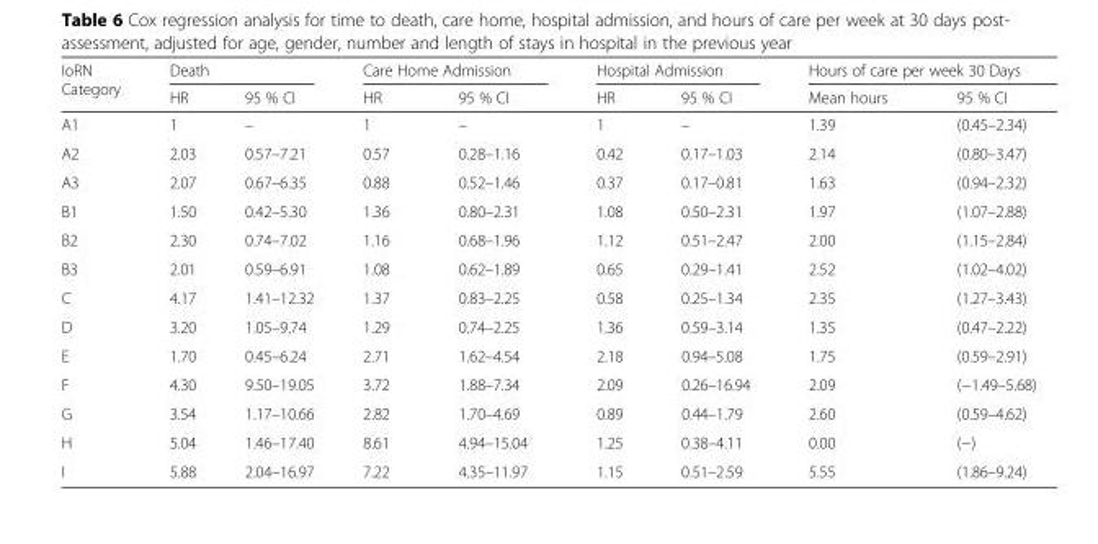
<table><thead><tr><td rowspan="2">IoRN Category</td><td colspan="2">Death</td><td colspan="2">Care Home Admission</td><td colspan="2">Hospital Admission</td><td colspan="2">Hours of care per week 30 Days</td></tr><tr><td>HR</td><td>95 % CI</td><td>HR</td><td>95 % CI</td><td>HR</td><td>95 % CI</td><td>Mean hours</td><td>95 % CI</td></tr></thead><tbody><tr><td>A1</td><td>1</td><td>–</td><td>1</td><td>–</td><td>1</td><td>–</td><td>1.39</td><td>(0.45–2.34)</td></tr><tr><td>A2</td><td>2.03</td><td>0.57–7.21</td><td>0.57</td><td>0.28–1.16</td><td>0.42</td><td>0.17–1.03</td><td>2.14</td><td>(0.80–3.47)</td></tr><tr><td>A3</td><td>2.07</td><td>0.67–6.35</td><td>0.88</td><td>0.52–1.46</td><td>0.37</td><td>0.17–0.81</td><td>1.63</td><td>(0.94–2.32)</td></tr><tr><td>B1</td><td>1.50</td><td>0.42–5.30</td><td>1.36</td><td>0.80–2.31</td><td>1.08</td><td>0.50–2.31</td><td>1.97</td><td>(1.07–2.88)</td></tr><tr><td>B2</td><td>2.30</td><td>0.74–7.02</td><td>1.16</td><td>0.68–1.96</td><td>1.12</td><td>0.51–2.47</td><td>2.00</td><td>(1.15–2.84)</td></tr><tr><td>B3</td><td>2.01</td><td>0.59–6.91</td><td>1.08</td><td>0.62–1.89</td><td>0.65</td><td>0.29–1.41</td><td>2.52</td><td>(1.02–4.02)</td></tr><tr><td>C</td><td>4.17</td><td>1.41–12.32</td><td>1.37</td><td>0.83–2.25</td><td>0.58</td><td>0.25–1.34</td><td>2.35</td><td>(1.27–3.43)</td></tr><tr><td>D</td><td>3.20</td><td>1.05–9.74</td><td>1.29</td><td>0.74–2.25</td><td>1.36</td><td>0.59–3.14</td><td>1.35</td><td>(0.47–2.22)</td></tr><tr><td>E</td><td>1.70</td><td>0.45–6.24</td><td>2.71</td><td>1.62–4.54</td><td>2.18</td><td>0.94–5.08</td><td>1.75</td><td>(0.59–2.91)</td></tr><tr><td>F</td><td>4.30</td><td>9.50–19.05</td><td>3.72</td><td>1.88–7.34</td><td>2.09</td><td>0.26–16.94</td><td>2.09</td><td>(−1.49–5.68)</td></tr><tr><td>G</td><td>3.54</td><td>1.17–10.66</td><td>2.82</td><td>1.70–4.69</td><td>0.89</td><td>0.44–1.79</td><td>2.60</td><td>(0.59–4.62)</td></tr><tr><td>H</td><td>5.04</td><td>1.46–17.40</td><td>8.61</td><td>4.94–15.04</td><td>1.25</td><td>0.38–4.11</td><td>0.00</td><td>(−)</td></tr><tr><td>I</td><td>5.88</td><td>2.04–16.97</td><td>7.22</td><td>4.35–11.97</td><td>1.15</td><td>0.51–2.59</td><td>5.55</td><td>(1.86–9.24)</td></tr></tbody></table>